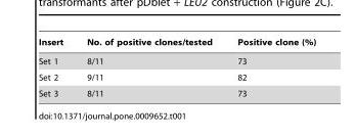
<table><thead><tr><td>Insert</td><td>No. of positive clones/tested</td><td>Positive clone (%)</td></tr></thead><tbody><tr><td>Set 1</td><td>8/11</td><td>73</td></tr><tr><td>Set 2</td><td>9/11</td><td>82</td></tr><tr><td>Set 3</td><td>8/11</td><td>73</td></tr></tbody></table>